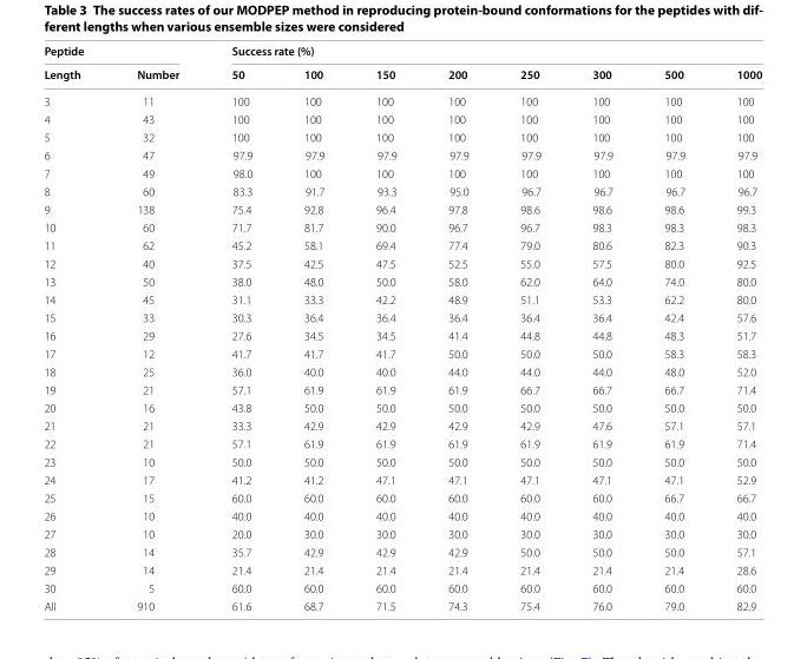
<table><thead><tr><td colspan="2">Peptide</td><td colspan="8">Success rate (%)</td></tr><tr><td>Length</td><td>Number</td><td>50</td><td>100</td><td>150</td><td>200</td><td>250</td><td>300</td><td>500</td><td>1000</td></tr></thead><tbody><tr><td>3</td><td>11</td><td>100</td><td>100</td><td>100</td><td>100</td><td>100</td><td>100</td><td>100</td><td>100</td></tr><tr><td>4</td><td>43</td><td>100</td><td>100</td><td>100</td><td>100</td><td>100</td><td>100</td><td>100</td><td>100</td></tr><tr><td>5</td><td>32</td><td>100</td><td>100</td><td>100</td><td>100</td><td>100</td><td>100</td><td>100</td><td>100</td></tr><tr><td>6</td><td>47</td><td>97.9</td><td>97.9</td><td>97.9</td><td>97.9</td><td>97.9</td><td>97.9</td><td>97.9</td><td>97.9</td></tr><tr><td>7</td><td>49</td><td>98.0</td><td>100</td><td>100</td><td>100</td><td>100</td><td>100</td><td>100</td><td>100</td></tr><tr><td>8</td><td>60</td><td>83.3</td><td>91.7</td><td>93.3</td><td>95.0</td><td>96.7</td><td>96.7</td><td>96.7</td><td>96.7</td></tr><tr><td>9</td><td>138</td><td>75.4</td><td>92.8</td><td>96.4</td><td>97.8</td><td>98.6</td><td>98.6</td><td>98.6</td><td>99.3</td></tr><tr><td>10</td><td>60</td><td>71.7</td><td>81.7</td><td>90.0</td><td>96.7</td><td>96.7</td><td>98.3</td><td>98.3</td><td>98.3</td></tr><tr><td>11</td><td>62</td><td>45.2</td><td>58.1</td><td>69.4</td><td>77.4</td><td>79.0</td><td>80.6</td><td>82.3</td><td>90.3</td></tr><tr><td>12</td><td>40</td><td>37.5</td><td>42.5</td><td>47.5</td><td>52.5</td><td>55.0</td><td>57.5</td><td>80.0</td><td>92.5</td></tr><tr><td>13</td><td>50</td><td>38.0</td><td>48.0</td><td>50.0</td><td>58.0</td><td>62.0</td><td>64.0</td><td>74.0</td><td>80.0</td></tr><tr><td>14</td><td>45</td><td>31.1</td><td>33.3</td><td>42.2</td><td>48.9</td><td>51.1</td><td>53.3</td><td>62.2</td><td>80.0</td></tr><tr><td>15</td><td>33</td><td>30.3</td><td>36.4</td><td>36.4</td><td>36.4</td><td>36.4</td><td>36.4</td><td>42.4</td><td>57.6</td></tr><tr><td>16</td><td>29</td><td>27.6</td><td>34.5</td><td>34.5</td><td>41.4</td><td>44.8</td><td>44.8</td><td>48.3</td><td>51.7</td></tr><tr><td>17</td><td>12</td><td>41.7</td><td>41.7</td><td>41.7</td><td>50.0</td><td>50.0</td><td>50.0</td><td>58.3</td><td>58.3</td></tr><tr><td>18</td><td>25</td><td>36.0</td><td>40.0</td><td>40.0</td><td>44.0</td><td>44.0</td><td>44.0</td><td>48.0</td><td>52.0</td></tr><tr><td>19</td><td>21</td><td>57.1</td><td>61.9</td><td>61.9</td><td>61.9</td><td>66.7</td><td>66.7</td><td>66.7</td><td>71.4</td></tr><tr><td>20</td><td>16</td><td>43.8</td><td>50.0</td><td>50.0</td><td>50.0</td><td>50.0</td><td>50.0</td><td>50.0</td><td>50.0</td></tr><tr><td>21</td><td>21</td><td>33.3</td><td>42.9</td><td>42.9</td><td>42.9</td><td>42.9</td><td>47.6</td><td>57.1</td><td>57.1</td></tr><tr><td>22</td><td>21</td><td>57.1</td><td>61.9</td><td>61.9</td><td>61.9</td><td>61.9</td><td>61.9</td><td>61.9</td><td>71.4</td></tr><tr><td>23</td><td>10</td><td>50.0</td><td>50.0</td><td>50.0</td><td>50.0</td><td>50.0</td><td>50.0</td><td>50.0</td><td>50.0</td></tr><tr><td>24</td><td>17</td><td>41.2</td><td>41.2</td><td>47.1</td><td>47.1</td><td>47.1</td><td>47.1</td><td>47.1</td><td>52.9</td></tr><tr><td>25</td><td>15</td><td>60.0</td><td>60.0</td><td>60.0</td><td>60.0</td><td>60.0</td><td>60.0</td><td>66.7</td><td>66.7</td></tr><tr><td>26</td><td>10</td><td>40.0</td><td>40.0</td><td>40.0</td><td>40.0</td><td>40.0</td><td>40.0</td><td>40.0</td><td>40.0</td></tr><tr><td>27</td><td>10</td><td>20.0</td><td>30.0</td><td>30.0</td><td>30.0</td><td>30.0</td><td>30.0</td><td>30.0</td><td>30.0</td></tr><tr><td>28</td><td>14</td><td>35.7</td><td>42.9</td><td>42.9</td><td>42.9</td><td>50.0</td><td>50.0</td><td>50.0</td><td>57.1</td></tr><tr><td>29</td><td>14</td><td>21.4</td><td>21.4</td><td>21.4</td><td>21.4</td><td>21.4</td><td>21.4</td><td>21.4</td><td>28.6</td></tr><tr><td>30</td><td>5</td><td>60.0</td><td>60.0</td><td>60.0</td><td>60.0</td><td>60.0</td><td>60.0</td><td>60.0</td><td>60.0</td></tr><tr><td>All</td><td>910</td><td>61.6</td><td>68.7</td><td>71.5</td><td>74.3</td><td>75.4</td><td>76.0</td><td>79.0</td><td>82.9</td></tr></tbody></table>